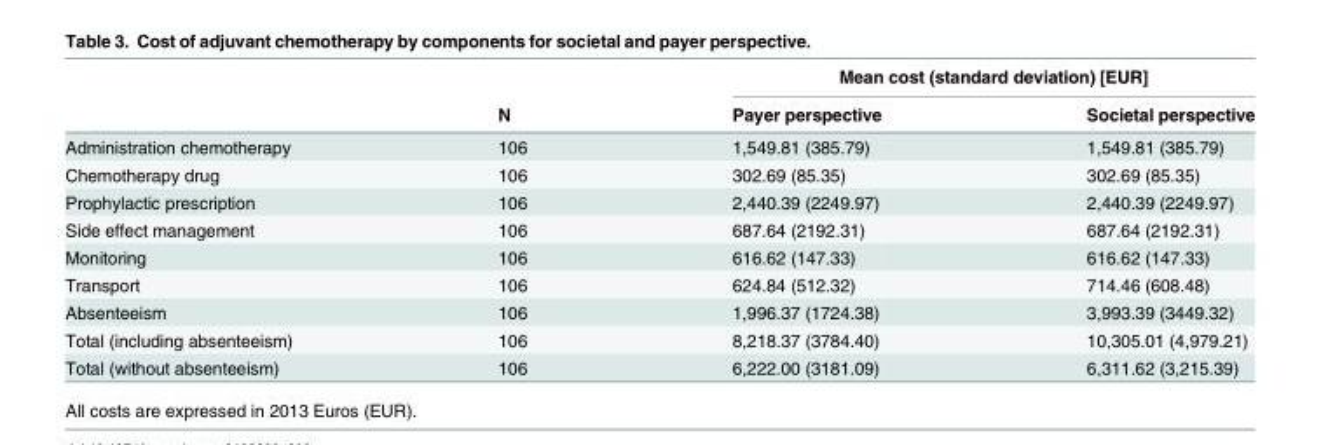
<table><thead><tr><td rowspan="2"></td><td rowspan="2">N</td><td colspan="2">Mean cost (standard deviation) [EUR]</td></tr><tr><td>Payer perspective</td><td>Societal perspective</td></tr></thead><tbody><tr><td>Administration chemotherapy</td><td>106</td><td>1,549.81 (385.79)</td><td>1,549.81 (385.79)</td></tr><tr><td>Chemotherapy drug</td><td>106</td><td>302.69 (85.35)</td><td>302.69 (85.35)</td></tr><tr><td>Prophylactic prescription</td><td>106</td><td>2,440.39 (2249.97)</td><td>2,440.39 (2249.97)</td></tr><tr><td>Side effect management</td><td>106</td><td>687.64 (2192.31)</td><td>687.64 (2192.31)</td></tr><tr><td>Monitoring</td><td>106</td><td>616.62 (147.33)</td><td>616.62 (147.33)</td></tr><tr><td>Transport</td><td>106</td><td>624.84 (512.32)</td><td>714.46 (608.48)</td></tr><tr><td>Absenteeism</td><td>106</td><td>1,996.37 (1724.38)</td><td>3,993.39 (3449.32)</td></tr><tr><td>Total (including absenteeism)</td><td>106</td><td>8,218.37 (3784.40)</td><td>10,305.01 (4,979.21)</td></tr><tr><td>Total (without absenteeism)</td><td>106</td><td>6,222.00 (3181.09)</td><td>6,311.62 (3,215.39)</td></tr></tbody></table>